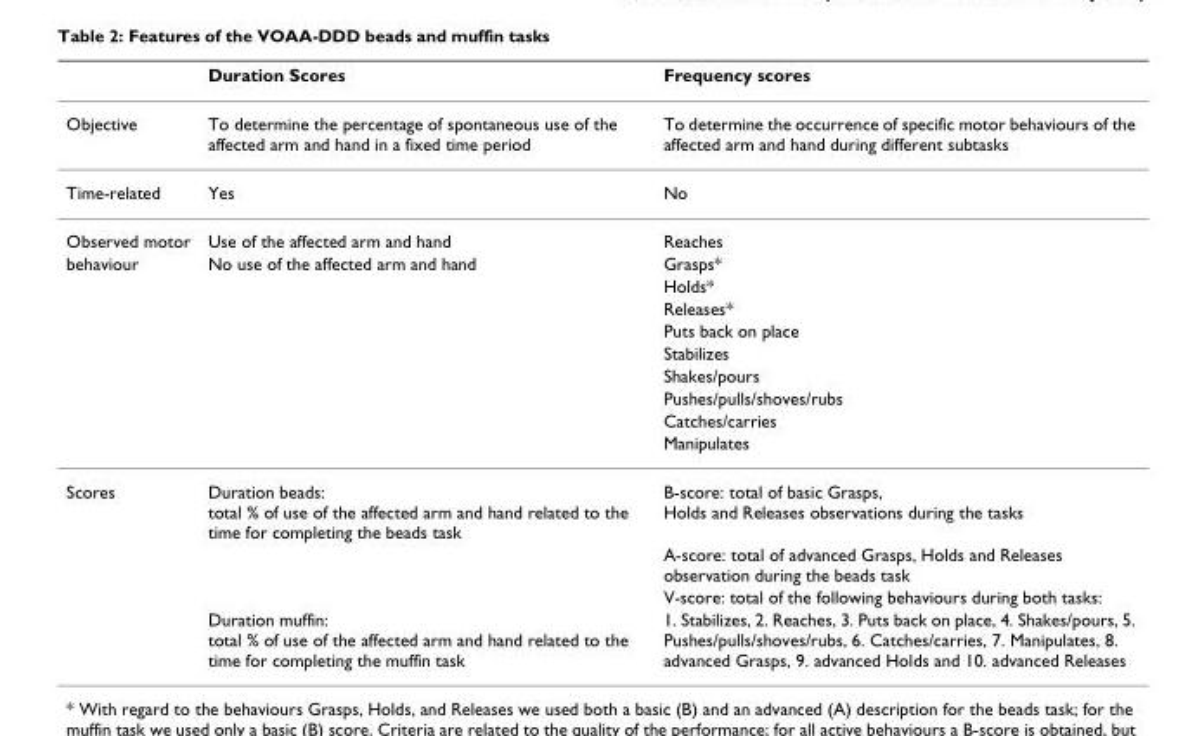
<table><thead><tr><td></td><td>Duration Scores</td><td>Frequency scores</td></tr></thead><tbody><tr><td>Objective</td><td>To determine the percentage of spontaneous use of the affected arm and hand in a fixed time period</td><td>To determine the occurrence of specific motor behaviours of the affected arm and hand during different subtasks</td></tr><tr><td>Time-related</td><td>Yes</td><td>No</td></tr><tr><td>Observed motor</td><td>Use of the affected arm and hand</td><td>Reaches</td></tr><tr><td rowspan="9">behaviour</td><td>No use of the affected arm and hand</td><td>Grasps*</td></tr><tr><td></td><td>Holds*</td></tr><tr><td></td><td>Releases*</td></tr><tr><td></td><td>Puts back on place</td></tr><tr><td></td><td>Stabilizes</td></tr><tr><td></td><td>Shakes/pours</td></tr><tr><td></td><td>Pushes/pulls/shoves/rubs</td></tr><tr><td></td><td>Catches/carries</td></tr><tr><td></td><td>Manipulates</td></tr><tr><td rowspan="4">Scores</td><td>Duration beads: total % of use of the affected arm and hand related to the time for completing the beads task</td><td>B-score: total of basic Grasps, Holds and Releases observations during the tasks</td></tr><tr><td></td><td>A-score: total of advanced Grasps, Holds and Releases observation during the beads task</td></tr><tr><td></td><td>V-score: total of the following behaviours during both tasks:</td></tr><tr><td>Duration muffin: total % of use of the affected arm and hand related to the time for completing the muffin task</td><td>1. Stabilizes, 2. Reaches, 3. Puts back on place, 4. Shakes/pours, 5. Pushes/pulls/shoves/rubs, 6. Catches/carries, 7. Manipulates, 8. advanced Grasps, 9. advanced Holds and 10. advanced Releases</td></tr></tbody></table>